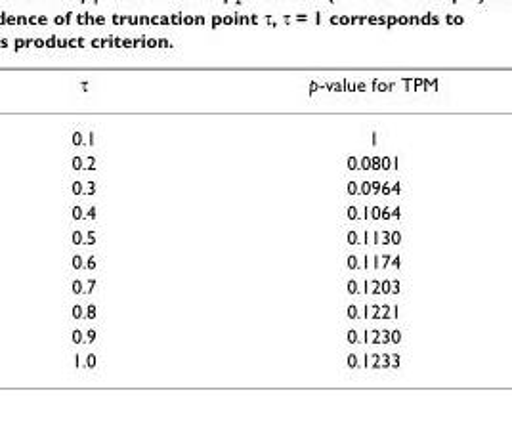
<table><thead><tr><td>τ</td><td>p-value for TPM</td></tr></thead><tbody><tr><td>0.1</td><td>1</td></tr><tr><td>0.2</td><td>0.0801</td></tr><tr><td>0.3</td><td>0.0964</td></tr><tr><td>0.4</td><td>0.1064</td></tr><tr><td>0.5</td><td>0.1130</td></tr><tr><td>0.6</td><td>0.1174</td></tr><tr><td>0.7</td><td>0.1203</td></tr><tr><td>0.8</td><td>0.1221</td></tr><tr><td>0.9</td><td>0.1230</td></tr><tr><td>1.0</td><td>0.1233</td></tr></tbody></table>